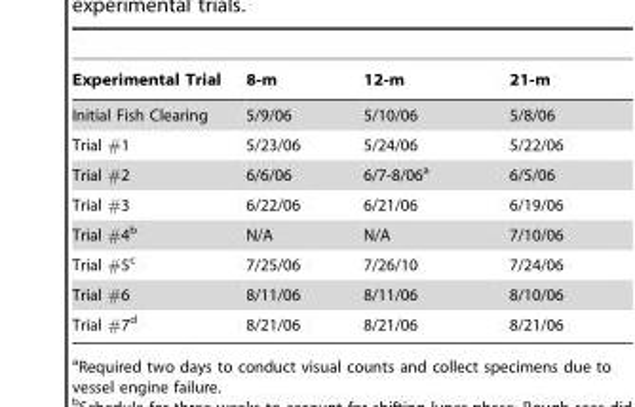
<table><thead><tr><td>Experimental Trial</td><td>8-m</td><td>12-m</td><td>21-m</td></tr></thead><tbody><tr><td>Initial Fish Clearing</td><td>5/9/06</td><td>5/10/06</td><td>5/8/06</td></tr><tr><td>Trial #1</td><td>5/23/06</td><td>5/24/06</td><td>5/22/06</td></tr><tr><td>Trial #2</td><td>6/6/06</td><td>6/7-8/06<sup>a</sup></td><td>6/5/06</td></tr><tr><td>Trial #3</td><td>6/22/06</td><td>6/21/06</td><td>6/19/06</td></tr><tr><td>Trial #4<sup>b</sup></td><td>N/A</td><td>N/A</td><td>7/10/06</td></tr><tr><td>Trial #5<sup>c</sup></td><td>7/25/06</td><td>7/26/10</td><td>7/24/06</td></tr><tr><td>Trial #6</td><td>8/11/06</td><td>8/11/06</td><td>8/10/06</td></tr><tr><td>Trial #7<sup>d</sup></td><td>8/21/06</td><td>8/21/06</td><td>8/21/06</td></tr></tbody></table>